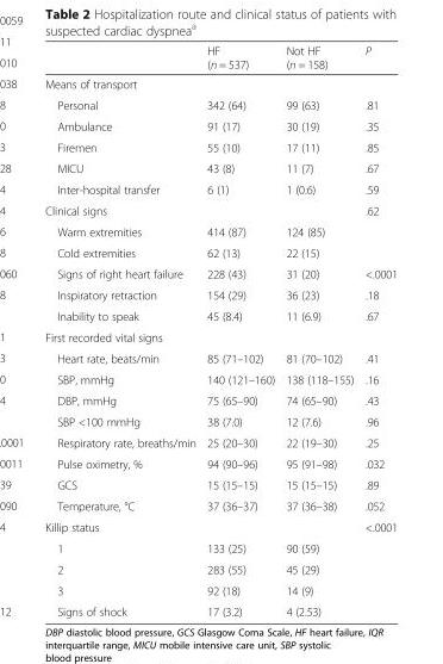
<table><thead><tr><td></td><td>HF (n = 537)</td><td>Not HF (n = 158)</td><td>P</td></tr></thead><tbody><tr><td colspan="4">Means of transport</td></tr><tr><td>Personal</td><td>342 (64)</td><td>99 (63)</td><td>.81</td></tr><tr><td>Ambulance</td><td>91 (17)</td><td>30 (19)</td><td>.35</td></tr><tr><td>Firemen</td><td>55 (10)</td><td>17 (11)</td><td>.85</td></tr><tr><td>MICU</td><td>43 (8)</td><td>11 (7)</td><td>.67</td></tr><tr><td>Inter-hospital transfer</td><td>6 (1)</td><td>1 (0.6)</td><td>.59</td></tr><tr><td>Clinical signs</td><td></td><td></td><td>.62</td></tr><tr><td>Warm extremities</td><td>414 (87)</td><td>124 (85)</td><td></td></tr><tr><td>Cold extremities</td><td>62 (13)</td><td>22 (15)</td><td></td></tr><tr><td>Signs of right heart failure</td><td>228 (43)</td><td>31 (20)</td><td>&lt;.0001</td></tr><tr><td>Inspiratory retraction</td><td>154 (29)</td><td>36 (23)</td><td>.18</td></tr><tr><td>Inability to speak</td><td>45 (8.4)</td><td>11 (6.9)</td><td>.67</td></tr><tr><td colspan="4">First recorded vital signs</td></tr><tr><td>Heart rate, beats/min</td><td>85 (71–102)</td><td>81 (70–102)</td><td>.41</td></tr><tr><td>SBP, mmHg</td><td>140 (121–160)</td><td>138 (118–155)</td><td>.16</td></tr><tr><td>DBP, mmHg</td><td>75 (65–90)</td><td>74 (65–90)</td><td>.43</td></tr><tr><td>SBP &lt;100 mmHg</td><td>38 (7.0)</td><td>12 (7.6)</td><td>.96</td></tr><tr><td>Respiratory rate, breaths/min</td><td>25 (20–30)</td><td>22 (19–30)</td><td>.25</td></tr><tr><td>Pulse oximetry, %</td><td>94 (90–96)</td><td>95 (91–98)</td><td>.032</td></tr><tr><td>GCS</td><td>15 (15–15)</td><td>15 (15–15)</td><td>.89</td></tr><tr><td>Temperature, °C</td><td>37 (36–37)</td><td>37 (36–38)</td><td>.052</td></tr><tr><td>Killip status</td><td></td><td></td><td>&lt;.0001</td></tr><tr><td>1</td><td>133 (25)</td><td>90 (59)</td><td></td></tr><tr><td>2</td><td>283 (55)</td><td>45 (29)</td><td></td></tr><tr><td>3</td><td>92 (18)</td><td>14 (9)</td><td></td></tr><tr><td>Signs of shock</td><td>17 (3.2)</td><td>4 (2.53)</td><td></td></tr></tbody></table>